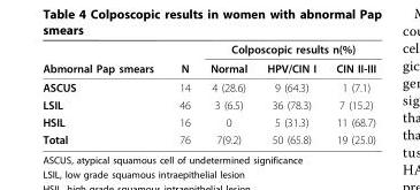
<table><thead><tr><td rowspan="2">Abmornal Pap smears</td><td rowspan="2">N</td><td colspan="3">Colposcopic results n(%)</td></tr><tr><td>Normal</td><td>HPV/CIN I</td><td>CIN II-III</td></tr></thead><tbody><tr><td>ASCUS</td><td>14</td><td>4 (28.6)</td><td>9 (64.3)</td><td>1 (7.1)</td></tr><tr><td>LSIL</td><td>46</td><td>3 (6.5)</td><td>36 (78.3)</td><td>7 (15.2)</td></tr><tr><td>HSIL</td><td>16</td><td>0</td><td>5 (31.3)</td><td>11 (68.7)</td></tr><tr><td>Total</td><td>76</td><td>7(9.2)</td><td>50 (65.8)</td><td>19 (25.0)</td></tr></tbody></table>